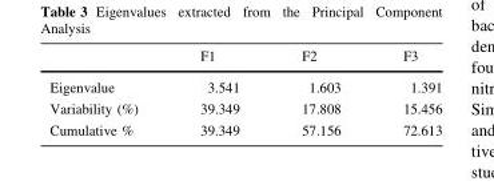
<table><thead><tr><td></td><td>F1</td><td>F2</td><td>F3</td></tr></thead><tbody><tr><td>Eigenvalue</td><td>3.541</td><td>1.603</td><td>1.391</td></tr><tr><td>Variability (%)</td><td>39.349</td><td>17.808</td><td>15.456</td></tr><tr><td>Cumulative %</td><td>39.349</td><td>57.156</td><td>72.613</td></tr></tbody></table>